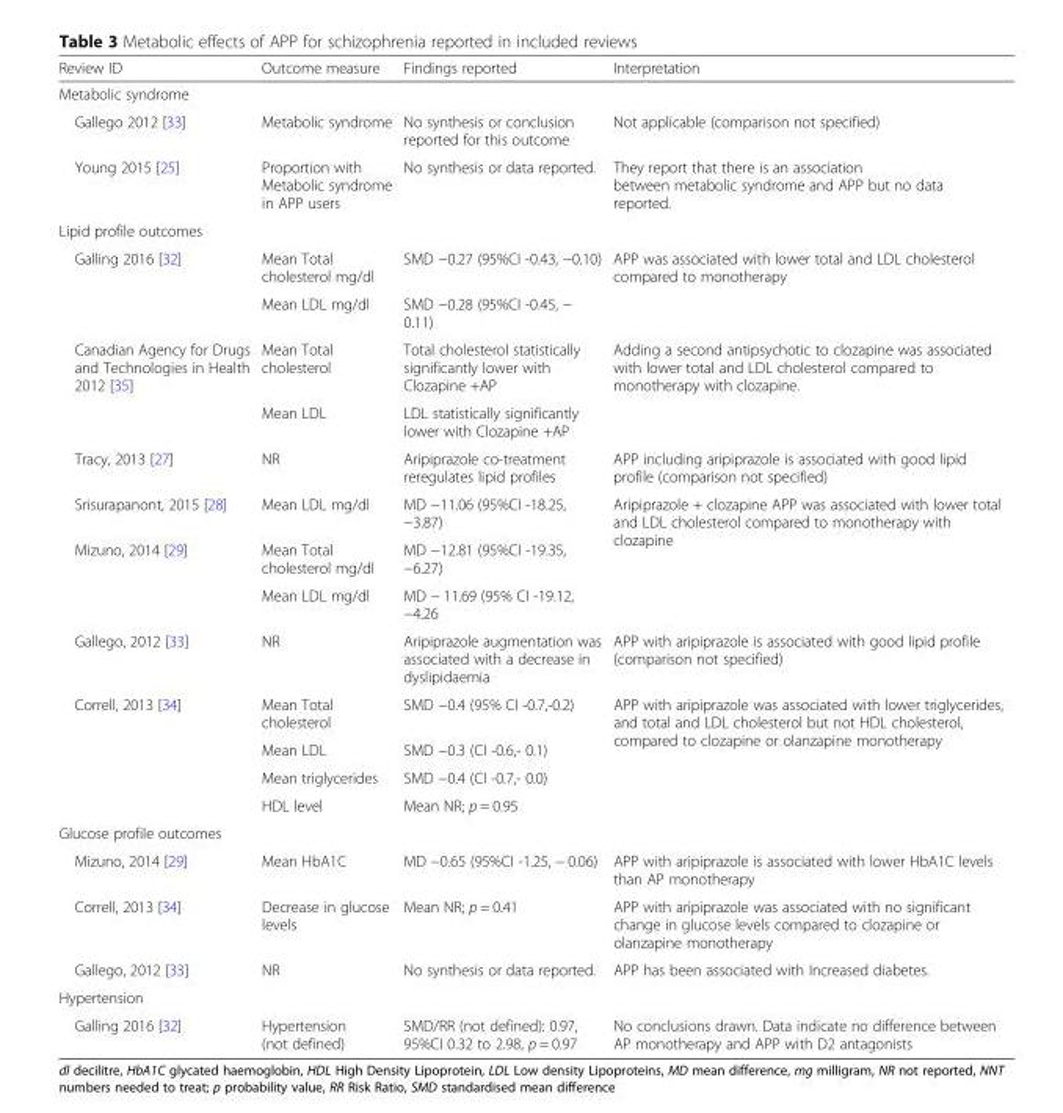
<table><thead><tr><td>Review ID</td><td>Outcome measure</td><td>Findings reported</td><td>Interpretation</td></tr></thead><tbody><tr><td colspan="4">Metabolic syndrome</td></tr><tr><td>Gallego 2012 [33]</td><td>Metabolic syndrome</td><td>No synthesis or conclusion reported for this outcome</td><td>Not applicable (comparison not specified)</td></tr><tr><td>Young 2015 [25]</td><td>Proportion with Metabolic syndrome in APP users</td><td>No synthesis or data reported.</td><td>They report that there is an association between metabolic syndrome and APP but no data reported.</td></tr><tr><td colspan="4">Lipid profile outcomes</td></tr><tr><td rowspan="2">Galling 2016 [32]</td><td>Mean Total cholesterol mg/dl</td><td>SMD −0.27 (95%CI -0.43, −0.10)</td><td rowspan="2">APP was associated with lower total and LDL cholesterol compared to monotherapy</td></tr><tr><td>Mean LDL mg/dl</td><td>SMD −0.28 (95%CI -0.45, − 0.11)</td></tr><tr><td rowspan="2">Canadian Agency for Drugs and Technologies in Health 2012 [35]</td><td>Mean Total cholesterol</td><td>Total cholesterol statistically significantly lower with Clozapine +AP</td><td rowspan="2">Adding a second antipsychotic to clozapine was associated with lower total and LDL cholesterol compared to monotherapy with clozapine.</td></tr><tr><td>Mean LDL</td><td>LDL statistically significantly lower with Clozapine +AP</td></tr><tr><td>Tracy, 2013 [27]</td><td>NR</td><td>Aripiprazole co-treatment reregulates lipid profiles</td><td>APP including aripiprazole is associated with good lipid profile (comparison not specified)</td></tr><tr><td>Srisurapanont, 2015 [28]</td><td>Mean LDL mg/dl</td><td>MD −11.06 (95%CI -18.25, −3.87)</td><td rowspan="3">Aripiprazole + clozapine APP was associated with lower total and LDL cholesterol compared to monotherapy with clozapine</td></tr><tr><td rowspan="2">Mizuno, 2014 [29]</td><td>Mean Total cholesterol mg/dl</td><td>MD −12.81 (95%CI -19.35, −6.27)</td></tr><tr><td>Mean LDL mg/dl</td><td>MD − 11.69 (95% CI -19.12, −4.26</td></tr><tr><td>Gallego, 2012 [33]</td><td>NR</td><td>Aripiprazole augmentation was associated with a decrease in dyslipidaemia</td><td>APP with aripiprazole is associated with good lipid profile (comparison not specified)</td></tr><tr><td rowspan="4">Correll, 2013 [34]</td><td>Mean Total cholesterol</td><td>SMD −0.4 (95% CI -0.7,-0.2)</td><td rowspan="4">APP with aripiprazole was associated with lower triglycerides, and total and LDL cholesterol but not HDL cholesterol, compared to clozapine or olanzapine monotherapy</td></tr><tr><td>Mean LDL</td><td>SMD −0.3 (CI -0.6,- 0.1)</td></tr><tr><td>Mean triglycerides</td><td>SMD −0.4 (CI -0.7,- 0.0)</td></tr><tr><td>HDL level</td><td>Mean NR; p = 0.95</td></tr><tr><td colspan="4">Glucose profile outcomes</td></tr><tr><td>Mizuno, 2014 [29]</td><td>Mean HbA1C</td><td>MD −0.65 (95%CI -1.25, − 0.06)</td><td>APP with aripiprazole is associated with lower HbA1C levels than AP monotherapy</td></tr><tr><td>Correll, 2013 [34]</td><td>Decrease in glucose levels</td><td>Mean NR; p = 0.41</td><td>APP with aripiprazole was associated with no significant change in glucose levels compared to clozapine or olanzapine monotherapy</td></tr><tr><td>Gallego, 2012 [33]</td><td>NR</td><td>No synthesis or data reported.</td><td>APP has been associated with Increased diabetes.</td></tr><tr><td colspan="4">Hypertension</td></tr><tr><td>Galling 2016 [32]</td><td>Hypertension (not defined)</td><td>SMD/RR (not defined): 0.97, 95%CI 0.32 to 2.98, p = 0.97</td><td>No conclusions drawn. Data indicate no difference between AP monotherapy and APP with D2 antagonists</td></tr></tbody></table>